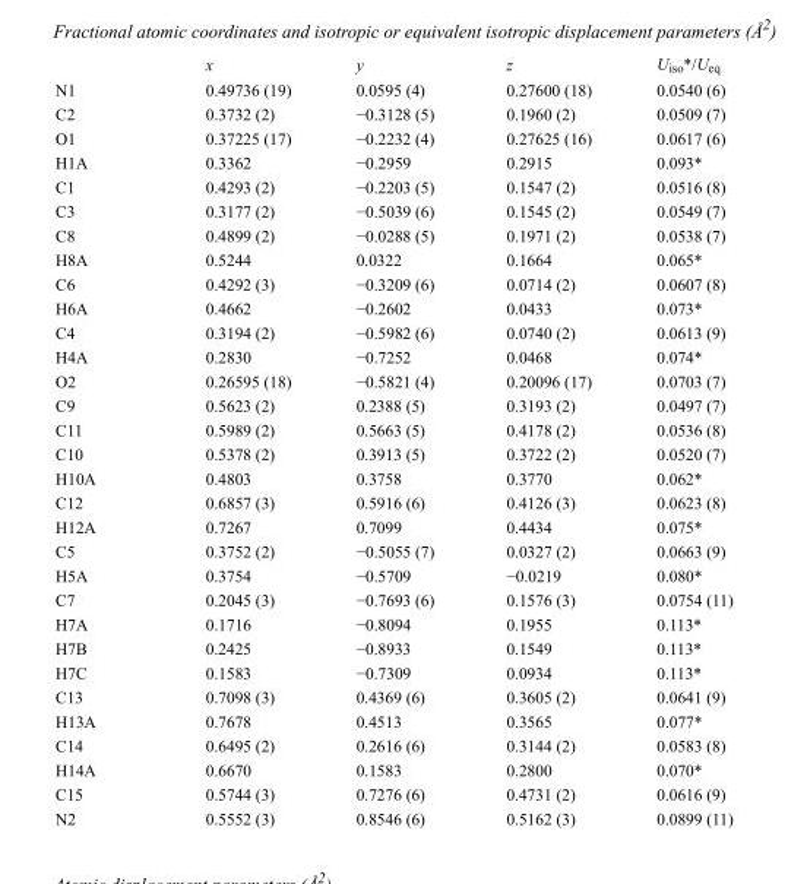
<table><thead><tr><td></td><td>x</td><td>y</td><td>z</td><td>U<sub>iso</sub>*/U<sub>eq</sub></td></tr></thead><tbody><tr><td>N1</td><td>0.49736 (19)</td><td>0.0595 (4)</td><td>0.27600 (18)</td><td>0.0540 (6)</td></tr><tr><td>C2</td><td>0.3732 (2)</td><td>−0.3128 (5)</td><td>0.1960 (2)</td><td>0.0509 (7)</td></tr><tr><td>O1</td><td>0.37225 (17)</td><td>−0.2232 (4)</td><td>0.27625 (16)</td><td>0.0617 (6)</td></tr><tr><td>H1A</td><td>0.3362</td><td>−0.2959</td><td>0.2915</td><td>0.093*</td></tr><tr><td>C1</td><td>0.4293 (2)</td><td>−0.2203 (5)</td><td>0.1547 (2)</td><td>0.0516 (8)</td></tr><tr><td>C3</td><td>0.3177 (2)</td><td>−0.5039 (6)</td><td>0.1545 (2)</td><td>0.0549 (7)</td></tr><tr><td>C8</td><td>0.4899 (2)</td><td>−0.0288 (5)</td><td>0.1971 (2)</td><td>0.0538 (7)</td></tr><tr><td>H8A</td><td>0.5244</td><td>0.0322</td><td>0.1664</td><td>0.065*</td></tr><tr><td>C6</td><td>0.4292 (3)</td><td>−0.3209 (6)</td><td>0.0714 (2)</td><td>0.0607 (8)</td></tr><tr><td>H6A</td><td>0.4662</td><td>−0.2602</td><td>0.0433</td><td>0.073*</td></tr><tr><td>C4</td><td>0.3194 (2)</td><td>−0.5982 (6)</td><td>0.0740 (2)</td><td>0.0613 (9)</td></tr><tr><td>H4A</td><td>0.2830</td><td>−0.7252</td><td>0.0468</td><td>0.074*</td></tr><tr><td>O2</td><td>0.26595 (18)</td><td>−0.5821 (4)</td><td>0.20096 (17)</td><td>0.0703 (7)</td></tr><tr><td>C9</td><td>0.5623 (2)</td><td>0.2388 (5)</td><td>0.3193 (2)</td><td>0.0497 (7)</td></tr><tr><td>C11</td><td>0.5989 (2)</td><td>0.5663 (5)</td><td>0.4178 (2)</td><td>0.0536 (8)</td></tr><tr><td>C10</td><td>0.5378 (2)</td><td>0.3913 (5)</td><td>0.3722 (2)</td><td>0.0520 (7)</td></tr><tr><td>H10A</td><td>0.4803</td><td>0.3758</td><td>0.3770</td><td>0.062*</td></tr><tr><td>C12</td><td>0.6857 (3)</td><td>0.5916 (6)</td><td>0.4126 (3)</td><td>0.0623 (8)</td></tr><tr><td>H12A</td><td>0.7267</td><td>0.7099</td><td>0.4434</td><td>0.075*</td></tr><tr><td>C5</td><td>0.3752 (2)</td><td>−0.5055 (7)</td><td>0.0327 (2)</td><td>0.0663 (9)</td></tr><tr><td>H5A</td><td>0.3754</td><td>−0.5709</td><td>−0.0219</td><td>0.080*</td></tr><tr><td>C7</td><td>0.2045 (3)</td><td>−0.7693 (6)</td><td>0.1576 (3)</td><td>0.0754 (11)</td></tr><tr><td>H7A</td><td>0.1716</td><td>−0.8094</td><td>0.1955</td><td>0.113*</td></tr><tr><td>H7B</td><td>0.2425</td><td>−0.8933</td><td>0.1549</td><td>0.113*</td></tr><tr><td>H7C</td><td>0.1583</td><td>−0.7309</td><td>0.0934</td><td>0.113*</td></tr><tr><td>C13</td><td>0.7098 (3)</td><td>0.4369 (6)</td><td>0.3605 (2)</td><td>0.0641 (9)</td></tr><tr><td>H13A</td><td>0.7678</td><td>0.4513</td><td>0.3565</td><td>0.077*</td></tr><tr><td>C14</td><td>0.6495 (2)</td><td>0.2616 (6)</td><td>0.3144 (2)</td><td>0.0583 (8)</td></tr><tr><td>H14A</td><td>0.6670</td><td>0.1583</td><td>0.2800</td><td>0.070*</td></tr><tr><td>C15</td><td>0.5744 (3)</td><td>0.7276 (6)</td><td>0.4731 (2)</td><td>0.0616 (9)</td></tr><tr><td>N2</td><td>0.5552 (3)</td><td>0.8546 (6)</td><td>0.5162 (3)</td><td>0.0899 (11)</td></tr></tbody></table>